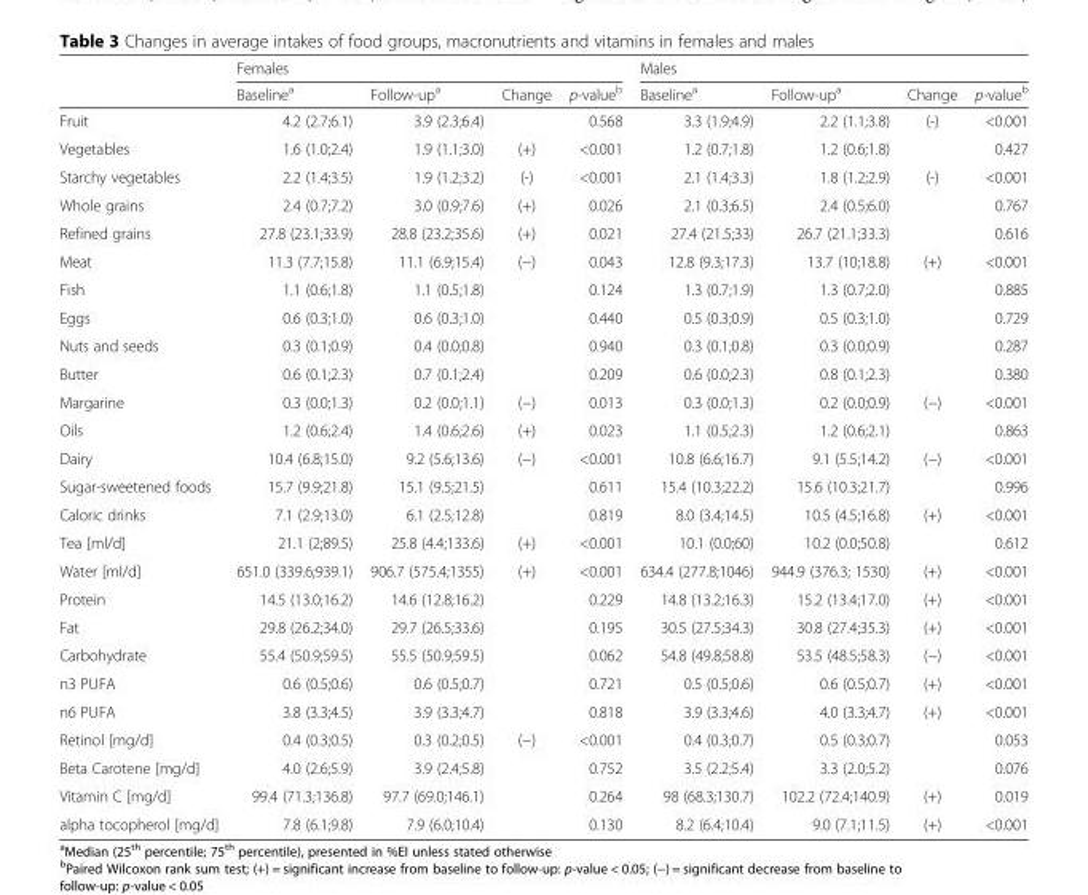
<table><thead><tr><td rowspan="2"></td><td colspan="4">Females</td><td colspan="4">Males</td></tr><tr><td>Baseline<sup>a</sup></td><td>Follow-up<sup>a</sup></td><td>Change</td><td>p-value<sup>b</sup></td><td>Baseline<sup>a</sup></td><td>Follow-up<sup>a</sup></td><td>Change</td><td>p-value<sup>b</sup></td></tr></thead><tbody><tr><td>Fruit</td><td>4.2 (2.7;6.1)</td><td>3.9 (2.3;6.4)</td><td></td><td>0.568</td><td>3.3 (1.9;4.9)</td><td>2.2 (1.1;3.8)</td><td>(-)</td><td>&lt;0.001</td></tr><tr><td>Vegetables</td><td>1.6 (1.0;2.4)</td><td>1.9 (1.1;3.0)</td><td>(+)</td><td>&lt;0.001</td><td>1.2 (0.7;1.8)</td><td>1.2 (0.6;1.8)</td><td></td><td>0.427</td></tr><tr><td>Starchy vegetables</td><td>2.2 (1.4;3.5)</td><td>1.9 (1.2;3.2)</td><td>(-)</td><td>&lt;0.001</td><td>2.1 (1.4;3.3)</td><td>1.8 (1.2;2.9)</td><td>(-)</td><td>&lt;0.001</td></tr><tr><td>Whole grains</td><td>2.4 (0.7;7.2)</td><td>3.0 (0.9;7.6)</td><td>(+)</td><td>0.026</td><td>2.1 (0.3;6.5)</td><td>2.4 (0.5;6.0)</td><td></td><td>0.767</td></tr><tr><td>Refined grains</td><td>27.8 (23.1;33.9)</td><td>28.8 (23.2;35.6)</td><td>(+)</td><td>0.021</td><td>27.4 (21.5;33)</td><td>26.7 (21.1;33.3)</td><td></td><td>0.616</td></tr><tr><td>Meat</td><td>11.3 (7.7;15.8)</td><td>11.1 (6.9;15.4)</td><td>(−)</td><td>0.043</td><td>12.8 (9.3;17.3)</td><td>13.7 (10;18.8)</td><td>(+)</td><td>&lt;0.001</td></tr><tr><td>Fish</td><td>1.1 (0.6;1.8)</td><td>1.1 (0.5;1.8)</td><td></td><td>0.124</td><td>1.3 (0.7;1.9)</td><td>1.3 (0.7;2.0)</td><td></td><td>0.885</td></tr><tr><td>Eggs</td><td>0.6 (0.3;1.0)</td><td>0.6 (0.3;1.0)</td><td></td><td>0.440</td><td>0.5 (0.3;0.9)</td><td>0.5 (0.3;1.0)</td><td></td><td>0.729</td></tr><tr><td>Nuts and seeds</td><td>0.3 (0.1;0.9)</td><td>0.4 (0.0;0.8)</td><td></td><td>0.940</td><td>0.3 (0.1;0.8)</td><td>0.3 (0.0;0.9)</td><td></td><td>0.287</td></tr><tr><td>Butter</td><td>0.6 (0.1;2.3)</td><td>0.7 (0.1;2.4)</td><td></td><td>0.209</td><td>0.6 (0.0;2.3)</td><td>0.8 (0.1;2.3)</td><td></td><td>0.380</td></tr><tr><td>Margarine</td><td>0.3 (0.0;1.3)</td><td>0.2 (0.0;1.1)</td><td>(−)</td><td>0.013</td><td>0.3 (0.0;1.3)</td><td>0.2 (0.0;0.9)</td><td>(−)</td><td>&lt;0.001</td></tr><tr><td>Oils</td><td>1.2 (0.6;2.4)</td><td>1.4 (0.6;2.6)</td><td>(+)</td><td>0.023</td><td>1.1 (0.5;2.3)</td><td>1.2 (0.6;2.1)</td><td></td><td>0.863</td></tr><tr><td>Dairy</td><td>10.4 (6.8;15.0)</td><td>9.2 (5.6;13.6)</td><td>(−)</td><td>&lt;0.001</td><td>10.8 (6.6;16.7)</td><td>9.1 (5.5;14.2)</td><td>(−)</td><td>&lt;0.001</td></tr><tr><td>Sugar-sweetened foods</td><td>15.7 (9.9;21.8)</td><td>15.1 (9.5;21.5)</td><td></td><td>0.611</td><td>15.4 (10.3;22.2)</td><td>15.6 (10.3;21.7)</td><td></td><td>0.996</td></tr><tr><td>Caloric drinks</td><td>7.1 (2.9;13.0)</td><td>6.1 (2.5;12.8)</td><td></td><td>0.819</td><td>8.0 (3.4;14.5)</td><td>10.5 (4.5;16.8)</td><td>(+)</td><td>&lt;0.001</td></tr><tr><td>Tea [ml/d]</td><td>21.1 (2;89.5)</td><td>25.8 (4.4;133.6)</td><td>(+)</td><td>&lt;0.001</td><td>10.1 (0.0;60)</td><td>10.2 (0.0;50.8)</td><td></td><td>0.612</td></tr><tr><td>Water [ml/d]</td><td>651.0 (339.6;939.1)</td><td>906.7 (575.4;1355)</td><td>(+)</td><td>&lt;0.001</td><td>634.4 (277.8;1046)</td><td>944.9 (376.3; 1530)</td><td>(+)</td><td>&lt;0.001</td></tr><tr><td>Protein</td><td>14.5 (13.0;16.2)</td><td>14.6 (12.8;16.2)</td><td></td><td>0.229</td><td>14.8 (13.2;16.3)</td><td>15.2 (13.4;17.0)</td><td>(+)</td><td>&lt;0.001</td></tr><tr><td>Fat</td><td>29.8 (26.2;34.0)</td><td>29.7 (26.5;33.6)</td><td></td><td>0.195</td><td>30.5 (27.5;34.3)</td><td>30.8 (27.4;35.3)</td><td>(+)</td><td>&lt;0.001</td></tr><tr><td>Carbohydrate</td><td>55.4 (50.9;59.5)</td><td>55.5 (50.9;59.5)</td><td></td><td>0.062</td><td>54.8 (49.8;58.8)</td><td>53.5 (48.5;58.3)</td><td>(−)</td><td>&lt;0.001</td></tr><tr><td>n3 PUFA</td><td>0.6 (0.5;0.6)</td><td>0.6 (0.5;0.7)</td><td></td><td>0.721</td><td>0.5 (0.5;0.6)</td><td>0.6 (0.5;0.7)</td><td>(+)</td><td>&lt;0.001</td></tr><tr><td>n6 PUFA</td><td>3.8 (3.3;4.5)</td><td>3.9 (3.3;4.7)</td><td></td><td>0.818</td><td>3.9 (3.3;4.6)</td><td>4.0 (3.3;4.7)</td><td>(+)</td><td>&lt;0.001</td></tr><tr><td>Retinol [mg/d]</td><td>0.4 (0.3;0.5)</td><td>0.3 (0.2;0.5)</td><td>(−)</td><td>&lt;0.001</td><td>0.4 (0.3;0.7)</td><td>0.5 (0.3;0.7)</td><td></td><td>0.053</td></tr><tr><td>Beta Carotene [mg/d]</td><td>4.0 (2.6;5.9)</td><td>3.9 (2.4;5.8)</td><td></td><td>0.752</td><td>3.5 (2.2;5.4)</td><td>3.3 (2.0;5.2)</td><td></td><td>0.076</td></tr><tr><td>Vitamin C [mg/d]</td><td>99.4 (71.3;136.8)</td><td>97.7 (69.0;146.1)</td><td></td><td>0.264</td><td>98 (68.3;130.7)</td><td>102.2 (72.4;140.9)</td><td>(+)</td><td>0.019</td></tr><tr><td>alpha tocopherol [mg/d]</td><td>7.8 (6.1;9.8)</td><td>7.9 (6.0;10.4)</td><td></td><td>0.130</td><td>8.2 (6.4;10.4)</td><td>9.0 (7.1;11.5)</td><td>(+)</td><td>&lt;0.001</td></tr></tbody></table>